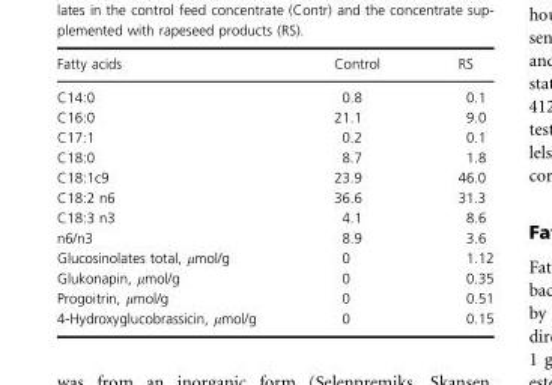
<table><thead><tr><td>Fatty acids</td><td>Control</td><td>RS</td></tr></thead><tbody><tr><td>C14:0</td><td>0.8</td><td>0.1</td></tr><tr><td>C16:0</td><td>21.1</td><td>9.0</td></tr><tr><td>C17:1</td><td>0.2</td><td>0.1</td></tr><tr><td>C18:0</td><td>8.7</td><td>1.8</td></tr><tr><td>C18:1c9</td><td>23.9</td><td>46.0</td></tr><tr><td>C18:2 n6</td><td>36.6</td><td>31.3</td></tr><tr><td>C18:3 n3</td><td>4.1</td><td>8.6</td></tr><tr><td>n6/n3</td><td>8.9</td><td>3.6</td></tr><tr><td>Glucosinolates total, μmol/g</td><td>0</td><td>1.12</td></tr><tr><td>Glukonapin, μmol/g</td><td>0</td><td>0.35</td></tr><tr><td>Progoitrin, μmol/g</td><td>0</td><td>0.51</td></tr><tr><td>4-Hydroxyglucobrassicin, μmol/g</td><td>0</td><td>0.15</td></tr></tbody></table>